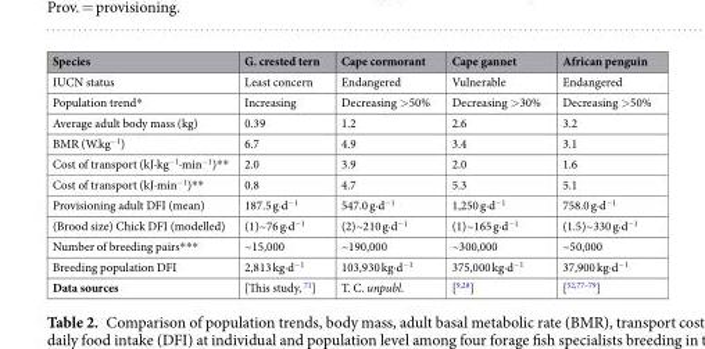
<table><thead><tr><td>Species</td><td>G. crested tern</td><td>Cape cormorant</td><td>Cape gannet</td><td>African penguin</td></tr></thead><tbody><tr><td>IUCN status</td><td>Least concern</td><td>Endangered</td><td>Vulnerable</td><td>Endangered</td></tr><tr><td>Population trend*</td><td>Increasing</td><td>Decreasing &gt;50%</td><td>Decreasing &gt;30%</td><td>Decreasing &gt;50%</td></tr><tr><td>Average adult body mass (kg)</td><td>0.39</td><td>1.2</td><td>2.6</td><td>3.2</td></tr><tr><td>BMR (W.kg<sup>−1</sup>)</td><td>6.7</td><td>4.9</td><td>3.4</td><td>3.1</td></tr><tr><td>Cost of transport (kJ·kg<sup>−1</sup>·min<sup>−1</sup>)**</td><td>2.0</td><td>3.9</td><td>2.0</td><td>1.6</td></tr><tr><td>Cost of transport (kJ·min<sup>−1</sup>)**</td><td>0.8</td><td>4.7</td><td>5.3</td><td>5.1</td></tr><tr><td>Provisioning adult DFI (mean)</td><td>187.5 g·d<sup>−1</sup></td><td>547.0 g·d<sup>−1</sup></td><td>1,250 g·d<sup>−1</sup></td><td>758.0 g·d<sup>−1</sup></td></tr><tr><td>(Brood size) Chick DFI (modelled)</td><td>(1)~76 g·d<sup>−1</sup></td><td>(2)~210 g·d<sup>−1</sup></td><td>(1)~165 g·d<sup>−1</sup></td><td>(1.5)~330 g·d<sup>−1</sup></td></tr><tr><td>Number of breeding pairs***</td><td>~15,000</td><td>~190,000</td><td>~300,000</td><td>~50,000</td></tr><tr><td>Breeding population DFI</td><td>2,813 kg·d<sup>−1</sup></td><td>103,930 kg·d<sup>−1</sup></td><td>375,000 kg·d<sup>−1</sup></td><td>37,900 kg·d<sup>−1</sup></td></tr><tr><td>Data sources</td><td>[This study, <sup>71</sup>]</td><td>T. C. unpubl.</td><td>[<sup>9</sup>,<sup>28</sup>]</td><td>[<sup>52</sup>,<sup>77</sup>–<sup>79</sup>]</td></tr></tbody></table>